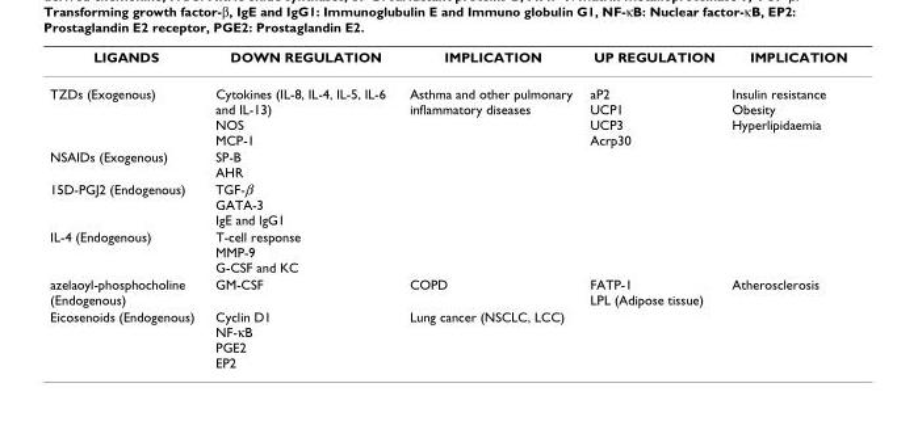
<table><thead><tr><td>LIGANDS</td><td>DOWN REGULATION</td><td>IMPLICATION</td><td>UP REGULATION</td><td>IMPLICATION</td></tr></thead><tbody><tr><td>TZDs (Exogenous)</td><td>Cytokines (IL-8, IL-4, IL-5, IL-6 and IL-13) NOS MCP-1</td><td>Asthma and other pulmonary inflammatory diseases</td><td>aP2 UCP1 UCP3 Acrp30</td><td>Insulin resistance Obesity Hyperlipidaemia</td></tr><tr><td>NSAIDs (Exogenous)</td><td>SP-B AHR</td><td></td><td></td><td></td></tr><tr><td>15D-PGJ2 (Endogenous)</td><td>TGF-β GATA-3 IgE and lgG1</td><td></td><td></td><td></td></tr><tr><td>IL-4 (Endogenous)</td><td>T-cell response MMP-9 G-CSF and KC</td><td></td><td></td><td></td></tr><tr><td>azelaoyl-phosphocholine (Endogenous)</td><td>GM-CSF</td><td>COPD</td><td>FATP-1 LPL (Adipose tissue)</td><td>Atherosclerosis</td></tr><tr><td>Eicosenoids (Endogenous)</td><td>Cyclin D1 NF-κB PGE2 EP2</td><td>Lung cancer (NSCLC, LCC)</td><td></td><td></td></tr></tbody></table>